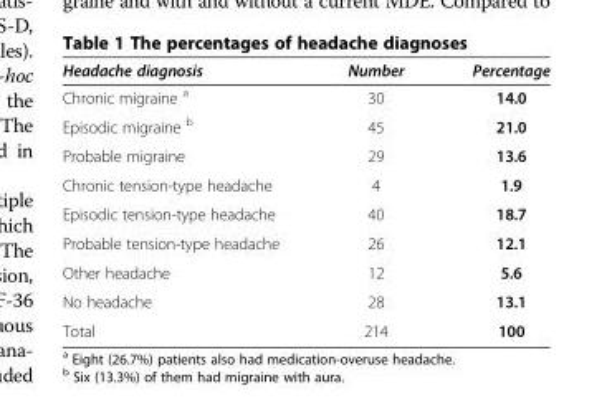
<table><thead><tr><td>Headache diagnosis</td><td>Number</td><td>Percentage</td></tr></thead><tbody><tr><td>Chronic migraine <sup>a</sup></td><td>30</td><td>14.0</td></tr><tr><td>Episodic migraine <sup>b</sup></td><td>45</td><td>21.0</td></tr><tr><td>Probable migraine</td><td>29</td><td>13.6</td></tr><tr><td>Chronic tension-type headache</td><td>4</td><td>1.9</td></tr><tr><td>Episodic tension-type headache</td><td>40</td><td>18.7</td></tr><tr><td>Probable tension-type headache</td><td>26</td><td>12.1</td></tr><tr><td>Other headache</td><td>12</td><td>5.6</td></tr><tr><td>No headache</td><td>28</td><td>13.1</td></tr><tr><td>Total</td><td>214</td><td>100</td></tr></tbody></table>